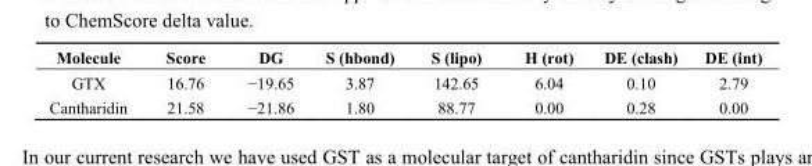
<table><thead><tr><td>Molecule</td><td>Score</td><td>DG</td><td>S (hbond)</td><td>S (lipo)</td><td>H (rot)</td><td>DE (clash)</td><td>DE (int)</td></tr></thead><tbody><tr><td>GTX</td><td>16.76</td><td>−19.65</td><td>3.87</td><td>142.65</td><td>6.04</td><td>0.10</td><td>2.79</td></tr><tr><td>Cantharidin</td><td>21.58</td><td>−21.86</td><td>1.80</td><td>88.77</td><td>0.00</td><td>0.28</td><td>0.00</td></tr></tbody></table>